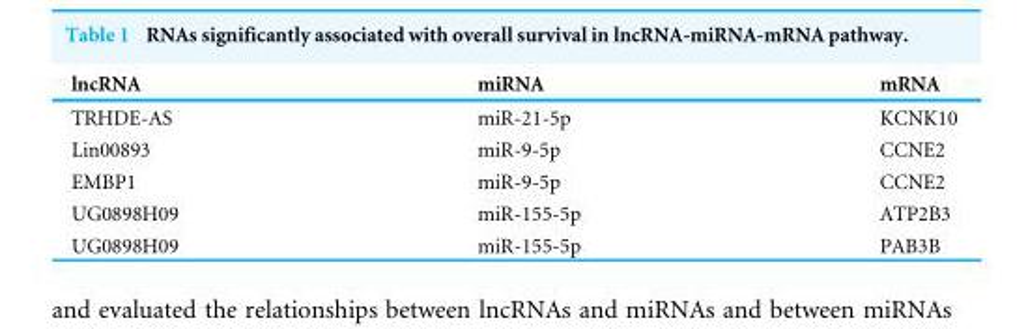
<table><thead><tr><td>lncRNA</td><td>miRNA</td><td>mRNA</td></tr></thead><tbody><tr><td>TRHDE-AS</td><td>miR-21-5p</td><td>KCNK10</td></tr><tr><td>Lin00893</td><td>miR-9-5p</td><td>CCNE2</td></tr><tr><td>EMBP1</td><td>miR-9-5p</td><td>CCNE2</td></tr><tr><td>UG0898H09</td><td>miR-155-5p</td><td>ATP2B3</td></tr><tr><td>UG0898H09</td><td>miR-155-5p</td><td>PAB3B</td></tr></tbody></table>